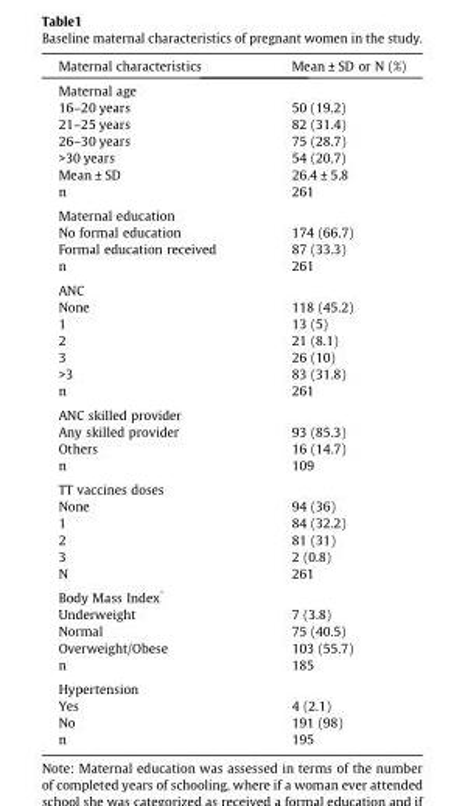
<table><thead><tr><td>Maternal characteristics</td><td>Mean ± SD or N (%)</td></tr></thead><tbody><tr><td colspan="2">Maternal age</td></tr><tr><td>16–20 years</td><td>50 (19.2)</td></tr><tr><td>21–25 years</td><td>82 (31.4)</td></tr><tr><td>26–30 years</td><td>75 (28.7)</td></tr><tr><td>&gt;30 years</td><td>54 (20.7)</td></tr><tr><td>Mean ± SD</td><td>26.4 ± 5.8</td></tr><tr><td>n</td><td>261</td></tr><tr><td colspan="2">Maternal education</td></tr><tr><td>No formal education</td><td>174 (66.7)</td></tr><tr><td>Formal education received</td><td>87 (33.3)</td></tr><tr><td>n</td><td>261</td></tr><tr><td colspan="2">ANC</td></tr><tr><td>None</td><td>118 (45.2)</td></tr><tr><td>1</td><td>13 (5)</td></tr><tr><td>2</td><td>21 (8.1)</td></tr><tr><td>3</td><td>26 (10)</td></tr><tr><td>&gt;3</td><td>83 (31.8)</td></tr><tr><td>n</td><td>261</td></tr><tr><td colspan="2">ANC skilled provider</td></tr><tr><td>Any skilled provider</td><td>93 (85.3)</td></tr><tr><td>Others</td><td>16 (14.7)</td></tr><tr><td>n</td><td>109</td></tr><tr><td colspan="2">TT vaccines doses</td></tr><tr><td>None</td><td>94 (36)</td></tr><tr><td>1</td><td>84 (32.2)</td></tr><tr><td>2</td><td>81 (31)</td></tr><tr><td>3</td><td>2 (0.8)</td></tr><tr><td>N</td><td>261</td></tr><tr><td colspan="2">Body Mass Index*</td></tr><tr><td>Underweight</td><td>7 (3.8)</td></tr><tr><td>Normal</td><td>75 (40.5)</td></tr><tr><td>Overweight/Obese</td><td>103 (55.7)</td></tr><tr><td>n</td><td>185</td></tr><tr><td colspan="2">Hypertension</td></tr><tr><td>Yes</td><td>4 (2.1)</td></tr><tr><td>No</td><td>191 (98)</td></tr><tr><td>n</td><td>195</td></tr></tbody></table>